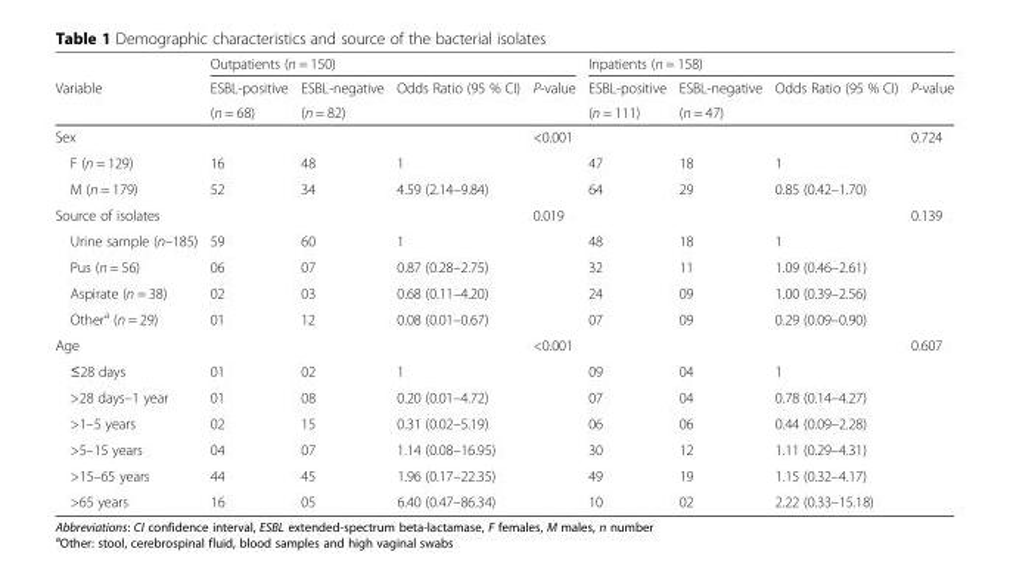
<table><thead><tr><td rowspan="3">Variable</td><td colspan="4">Outpatients (n = 150)</td><td colspan="4">Inpatients (n = 158)</td></tr><tr><td rowspan="2">ESBL-positive (n = 68)</td><td rowspan="2">ESBL-negative (n = 82)</td><td rowspan="2">Odds Ratio (95 % CI)</td><td rowspan="2">P-value</td><td rowspan="2">ESBL-positive (n = 111)</td><td rowspan="2">ESBL-negative (n = 47)</td><td rowspan="2">Odds Ratio (95 % CI)</td><td rowspan="2">P-value</td></tr><tr></tr></thead><tbody><tr><td>Sex</td><td></td><td></td><td></td><td>&lt;0.001</td><td></td><td></td><td></td><td>0.724</td></tr><tr><td>F (n = 129)</td><td>16</td><td>48</td><td>1</td><td></td><td>47</td><td>18</td><td>1</td><td></td></tr><tr><td>M (n = 179)</td><td>52</td><td>34</td><td>4.59 (2.14–9.84)</td><td></td><td>64</td><td>29</td><td>0.85 (0.42–1.70)</td><td></td></tr><tr><td>Source of isolates</td><td></td><td></td><td></td><td>0.019</td><td></td><td></td><td></td><td>0.139</td></tr><tr><td>Urine sample (n–185)</td><td>59</td><td>60</td><td>1</td><td></td><td>48</td><td>18</td><td>1</td><td></td></tr><tr><td>Pus (n = 56)</td><td>06</td><td>07</td><td>0.87 (0.28–2.75)</td><td></td><td>32</td><td>11</td><td>1.09 (0.46–2.61)</td><td></td></tr><tr><td>Aspirate (n = 38)</td><td>02</td><td>03</td><td>0.68 (0.11–4.20)</td><td></td><td>24</td><td>09</td><td>1.00 (0.39–2.56)</td><td></td></tr><tr><td>Other<sup>a</sup> (n = 29)</td><td>01</td><td>12</td><td>0.08 (0.01–0.67)</td><td></td><td>07</td><td>09</td><td>0.29 (0.09–0.90)</td><td></td></tr><tr><td>Age</td><td></td><td></td><td></td><td>&lt;0.001</td><td></td><td></td><td></td><td>0.607</td></tr><tr><td>≤28 days</td><td>01</td><td>02</td><td>1</td><td></td><td>09</td><td>04</td><td>1</td><td></td></tr><tr><td>&gt;28 days–1 year</td><td>01</td><td>08</td><td>0.20 (0.01–4.72)</td><td></td><td>07</td><td>04</td><td>0.78 (0.14–4.27)</td><td></td></tr><tr><td>&gt;1–5 years</td><td>02</td><td>15</td><td>0.31 (0.02–5.19)</td><td></td><td>06</td><td>06</td><td>0.44 (0.09–2.28)</td><td></td></tr><tr><td>&gt;5–15 years</td><td>04</td><td>07</td><td>1.14 (0.08–16.95)</td><td></td><td>30</td><td>12</td><td>1.11 (0.29–4.31)</td><td></td></tr><tr><td>&gt;15–65 years</td><td>44</td><td>45</td><td>1.96 (0.17–22.35)</td><td></td><td>49</td><td>19</td><td>1.15 (0.32–4.17)</td><td></td></tr><tr><td>&gt;65 years</td><td>16</td><td>05</td><td>6.40 (0.47–86.34)</td><td></td><td>10</td><td>02</td><td>2.22 (0.33–15.18)</td><td></td></tr></tbody></table>